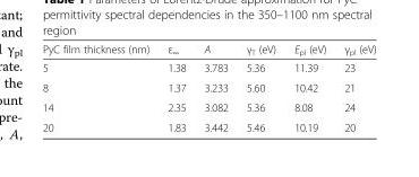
<table><thead><tr><td>PyC film thickness (nm)</td><td>ε<sub>∞</sub></td><td>A</td><td>γ<sub>T</sub> (eV)</td><td>E<sub>pl</sub> (eV)</td><td>γ<sub>pl</sub> (eV)</td></tr></thead><tbody><tr><td>5</td><td>1.38</td><td>3.783</td><td>5.36</td><td>11.39</td><td>23</td></tr><tr><td>8</td><td>1.37</td><td>3.233</td><td>5.60</td><td>10.42</td><td>21</td></tr><tr><td>14</td><td>2.35</td><td>3.082</td><td>5.36</td><td>8.08</td><td>24</td></tr><tr><td>20</td><td>1.83</td><td>3.442</td><td>5.46</td><td>10.19</td><td>20</td></tr></tbody></table>